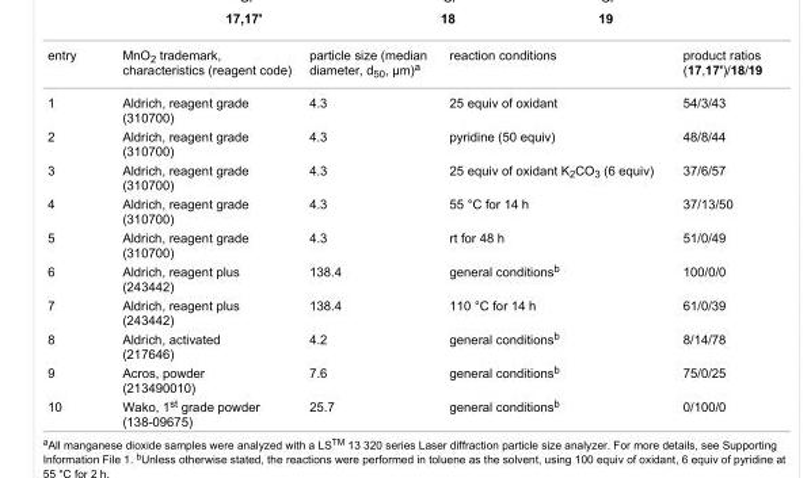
<table><tbody><tr><td>entry</td><td>MnO<sub>2</sub> trademark, characteristics (reagent code)</td><td>particle size (median diameter, d<sub>50</sub>, µm)<sup>a</sup></td><td>reaction conditions</td><td>product ratios (17,17&#x27;)/18/19</td></tr><tr><td>1</td><td>Aldrich, reagent grade (310700)</td><td>4.3</td><td>25 equiv of oxidant</td><td>54/3/43</td></tr><tr><td>2</td><td>Aldrich, reagent grade (310700)</td><td>4.3</td><td>pyridine (50 equiv)</td><td>48/8/44</td></tr><tr><td>3</td><td>Aldrich, reagent grade (310700)</td><td>4.3</td><td>25 equiv of oxidant K<sub>2</sub>CO<sub>3</sub> (6 equiv)</td><td>37/6/57</td></tr><tr><td>4</td><td>Aldrich, reagent grade (310700)</td><td>4.3</td><td>55 °C for 14 h</td><td>37/13/50</td></tr><tr><td>5</td><td>Aldrich, reagent grade (310700)</td><td>4.3</td><td>rt for 48 h</td><td>51/0/49</td></tr><tr><td>6</td><td>Aldrich, reagent plus (243442)</td><td>138.4</td><td>general conditions<sup>b</sup></td><td>100/0/0</td></tr><tr><td>7</td><td>Aldrich, reagent plus (243442)</td><td>138.4</td><td>110 °C for 14 h</td><td>61/0/39</td></tr><tr><td>8</td><td>Aldrich, activated (217646)</td><td>4.2</td><td>general conditions<sup>b</sup></td><td>8/14/78</td></tr><tr><td>9</td><td>Acros, powder (213490010)</td><td>7.6</td><td>general conditions<sup>b</sup></td><td>75/0/25</td></tr><tr><td>10</td><td>Wako, 1<sup>st</sup> grade powder (138-09675)</td><td>25.7</td><td>general conditions<sup>b</sup></td><td>0/100/0</td></tr></tbody></table>